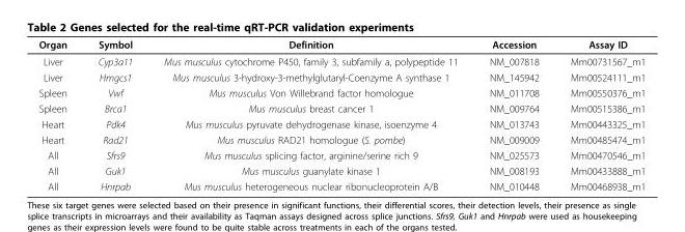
<table><thead><tr><td>Organ</td><td>Symbol</td><td>Definition</td><td>Accession</td><td>Assay ID</td></tr></thead><tbody><tr><td>Liver</td><td>Cyp3a11</td><td>Mus musculus cytochrome P450, family 3, subfamily a, polypeptide 11</td><td>NM_007818</td><td>Mm00731567_m1</td></tr><tr><td>Liver</td><td>Hmgcs1</td><td>Mus musculus 3-hydroxy-3-methylglutaryl-Coenzyme A synthase 1</td><td>NM_145942</td><td>Mm00524111_m1</td></tr><tr><td>Spleen</td><td>Vwf</td><td>Mus musculus Von Willebrand factor homologue</td><td>NM_011708</td><td>Mm00550376_m1</td></tr><tr><td>Spleen</td><td>Brca1</td><td>Mus musculus breast cancer 1</td><td>NM_009764</td><td>Mm00515386_m1</td></tr><tr><td>Heart</td><td>Pdk4</td><td>Mus musculus pyruvate dehydrogenase kinase, isoenzyme 4</td><td>NM_013743</td><td>Mm00443325_m1</td></tr><tr><td>Heart</td><td>Rad21</td><td>Mus musculus RAD21 homologue (S. pombe)</td><td>NM_009009</td><td>Mm00485474_m1</td></tr><tr><td>All</td><td>Sfrs9</td><td>Mus musculus splicing factor, arginine/serine rich 9</td><td>NM_025573</td><td>Mm00470546_m1</td></tr><tr><td>All</td><td>Guk1</td><td>Mus musculus guanylate kinase 1</td><td>NM_008193</td><td>Mm00433888_m1</td></tr><tr><td>All</td><td>Hnrpab</td><td>Mus musculus heterogeneous nuclear ribonucleoprotein A/B</td><td>NM_010448</td><td>Mm00468938_m1</td></tr></tbody></table>